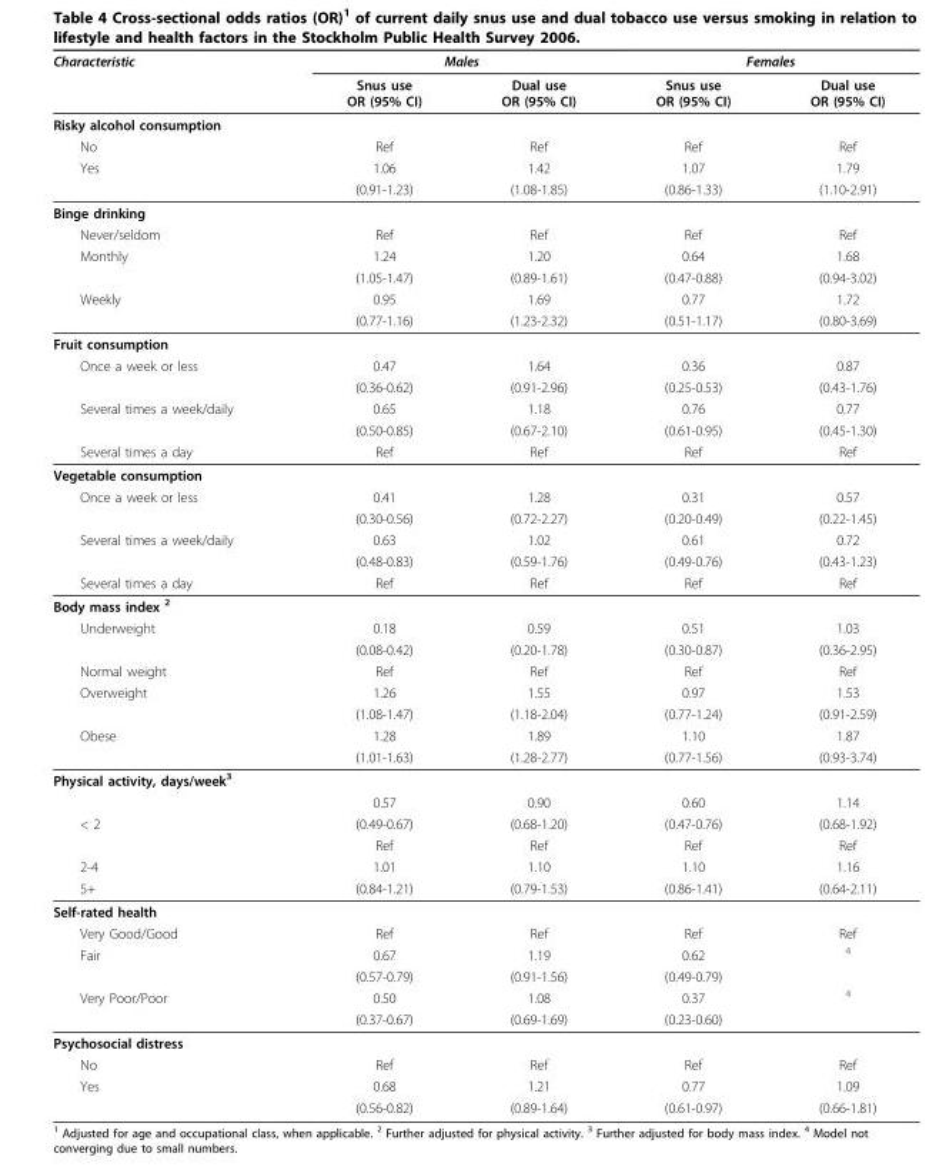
<table><thead><tr><td rowspan="2">Characteristic</td><td colspan="2">Males</td><td colspan="2">Females</td></tr><tr><td>Snus use OR (95% CI)</td><td>Dual use OR (95% CI)</td><td>Snus use OR (95% CI)</td><td>Dual use OR (95% CI)</td></tr></thead><tbody><tr><td colspan="5">Risky alcohol consumption</td></tr><tr><td>No</td><td>Ref</td><td>Ref</td><td>Ref</td><td>Ref</td></tr><tr><td rowspan="2">Yes</td><td>1.06</td><td>1.42</td><td>1.07</td><td>1.79</td></tr><tr><td>(0.91-1.23)</td><td>(1.08-1.85)</td><td>(0.86-1.33)</td><td>(1.10-2.91)</td></tr><tr><td colspan="5">Binge drinking</td></tr><tr><td>Never/seldom</td><td>Ref</td><td>Ref</td><td>Ref</td><td>Ref</td></tr><tr><td rowspan="2">Monthly</td><td>1.24</td><td>1.20</td><td>0.64</td><td>1.68</td></tr><tr><td>(1.05-1.47)</td><td>(0.89-1.61)</td><td>(0.47-0.88)</td><td>(0.94-3.02)</td></tr><tr><td rowspan="2">Weekly</td><td>0.95</td><td>1.69</td><td>0.77</td><td>1.72</td></tr><tr><td>(0.77-1.16)</td><td>(1.23-2.32)</td><td>(0.51-1.17)</td><td>(0.80-3.69)</td></tr><tr><td colspan="5">Fruit consumption</td></tr><tr><td rowspan="2">Once a week or less</td><td>0.47</td><td>1.64</td><td>0.36</td><td>0.87</td></tr><tr><td>(0.36-0.62)</td><td>(0.91-2.96)</td><td>(0.25-0.53)</td><td>(0.43-1.76)</td></tr><tr><td rowspan="2">Several times a week/daily</td><td>0.65</td><td>1.18</td><td>0.76</td><td>0.77</td></tr><tr><td>(0.50-0.85)</td><td>(0.67-2.10)</td><td>(0.61-0.95)</td><td>(0.45-1.30)</td></tr><tr><td>Several times a day</td><td>Ref</td><td>Ref</td><td>Ref</td><td>Ref</td></tr><tr><td colspan="5">Vegetable consumption</td></tr><tr><td rowspan="2">Once a week or less</td><td>0.41</td><td>1.28</td><td>0.31</td><td>0.57</td></tr><tr><td>(0.30-0.56)</td><td>(0.72-2.27)</td><td>(0.20-0.49)</td><td>(0.22-1.45)</td></tr><tr><td rowspan="2">Several times a week/daily</td><td>0.63</td><td>1.02</td><td>0.61</td><td>0.72</td></tr><tr><td>(0.48-0.83)</td><td>(0.59-1.76)</td><td>(0.49-0.76)</td><td>(0.43-1.23)</td></tr><tr><td>Several times a day</td><td>Ref</td><td>Ref</td><td>Ref</td><td>Ref</td></tr><tr><td colspan="5">Body mass index <sup>2</sup></td></tr><tr><td rowspan="2">Underweight</td><td>0.18</td><td>0.59</td><td>0.51</td><td>1.03</td></tr><tr><td>(0.08-0.42)</td><td>(0.20-1.78)</td><td>(0.30-0.87)</td><td>(0.36-2.95)</td></tr><tr><td>Normal weight</td><td>Ref</td><td>Ref</td><td>Ref</td><td>Ref</td></tr><tr><td rowspan="2">Overweight</td><td>1.26</td><td>1.55</td><td>0.97</td><td>1.53</td></tr><tr><td>(1.08-1.47)</td><td>(1.18-2.04)</td><td>(0.77-1.24)</td><td>(0.91-2.59)</td></tr><tr><td rowspan="2">Obese</td><td>1.28</td><td>1.89</td><td>1.10</td><td>1.87</td></tr><tr><td>(1.01-1.63)</td><td>(1.28-2.77)</td><td>(0.77-1.56)</td><td>(0.93-3.74)</td></tr><tr><td colspan="5">Physical activity, days/week<sup>3</sup></td></tr><tr><td></td><td>0.57</td><td>0.90</td><td>0.60</td><td>1.14</td></tr><tr><td rowspan="2">&lt; 2</td><td>(0.49-0.67)</td><td>(0.68-1.20)</td><td>(0.47-0.76)</td><td>(0.68-1.92)</td></tr><tr><td>Ref</td><td>Ref</td><td>Ref</td><td>Ref</td></tr><tr><td>2-4</td><td>1.01</td><td>1.10</td><td>1.10</td><td>1.16</td></tr><tr><td>5+</td><td>(0.84-1.21)</td><td>(0.79-1.53)</td><td>(0.86-1.41)</td><td>(0.64-2.11)</td></tr><tr><td colspan="5">Self-rated health</td></tr><tr><td>Very Good/Good</td><td>Ref</td><td>Ref</td><td>Ref</td><td>Ref</td></tr><tr><td rowspan="2">Fair</td><td>0.67</td><td>1.19</td><td>0.62</td><td><sup>4</sup></td></tr><tr><td>(0.57-0.79)</td><td>(0.91-1.56)</td><td>(0.49-0.79)</td><td></td></tr><tr><td rowspan="2">Very Poor/Poor</td><td>0.50</td><td>1.08</td><td>0.37</td><td><sup>4</sup></td></tr><tr><td>(0.37-0.67)</td><td>(0.69-1.69)</td><td>(0.23-0.60)</td><td></td></tr><tr><td colspan="5">Psychosocial distress</td></tr><tr><td>No</td><td>Ref</td><td>Ref</td><td>Ref</td><td>Ref</td></tr><tr><td rowspan="2">Yes</td><td>0.68</td><td>1.21</td><td>0.77</td><td>1.09</td></tr><tr><td>(0.56-0.82)</td><td>(0.89-1.64)</td><td>(0.61-0.97)</td><td>(0.66-1.81)</td></tr></tbody></table>